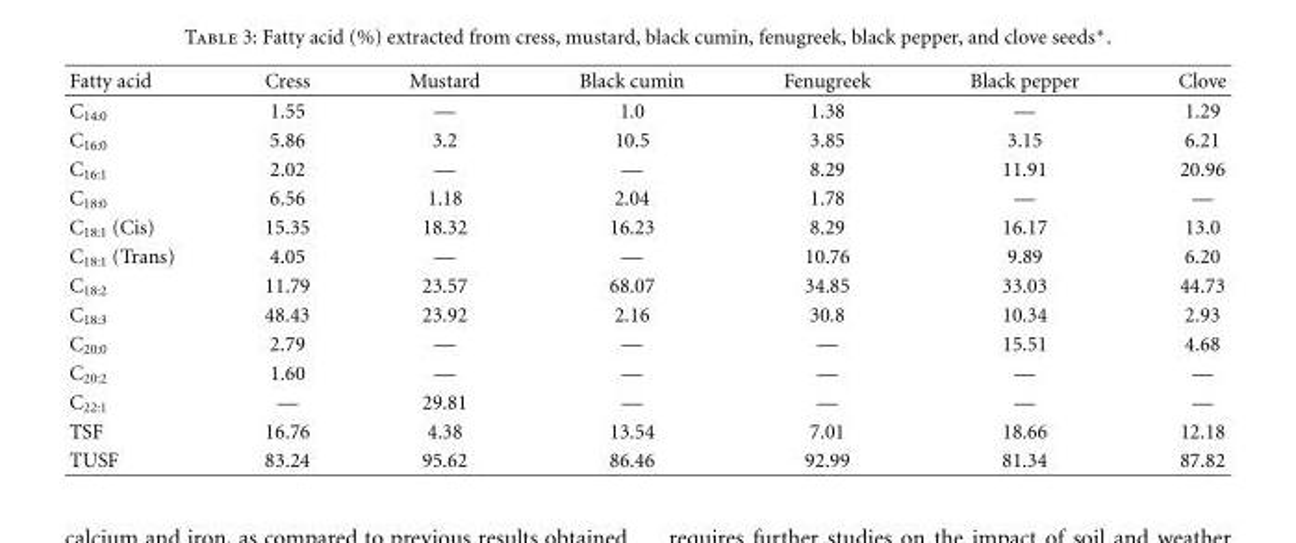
<table><thead><tr><td>Fatty acid</td><td>Cress</td><td>Mustard</td><td>Black cumin</td><td>Fenugreek</td><td>Black pepper</td><td>Clove</td></tr></thead><tbody><tr><td>C<sub>14:0</sub></td><td>1.55</td><td>—</td><td>1.0</td><td>1.38</td><td>—</td><td>1.29</td></tr><tr><td>C<sub>16:0</sub></td><td>5.86</td><td>3.2</td><td>10.5</td><td>3.85</td><td>3.15</td><td>6.21</td></tr><tr><td>C<sub>16:1</sub></td><td>2.02</td><td>—</td><td>—</td><td>8.29</td><td>11.91</td><td>20.96</td></tr><tr><td>C<sub>18:0</sub></td><td>6.56</td><td>1.18</td><td>2.04</td><td>1.78</td><td>—</td><td>—</td></tr><tr><td>C<sub>18:1</sub> (Cis)</td><td>15.35</td><td>18.32</td><td>16.23</td><td>8.29</td><td>16.17</td><td>13.0</td></tr><tr><td>C<sub>18:1</sub> (Trans)</td><td>4.05</td><td>—</td><td>—</td><td>10.76</td><td>9.89</td><td>6.20</td></tr><tr><td>C<sub>18:2</sub></td><td>11.79</td><td>23.57</td><td>68.07</td><td>34.85</td><td>33.03</td><td>44.73</td></tr><tr><td>C<sub>18:3</sub></td><td>48.43</td><td>23.92</td><td>2.16</td><td>30.8</td><td>10.34</td><td>2.93</td></tr><tr><td>C<sub>20:0</sub></td><td>2.79</td><td>—</td><td>—</td><td>—</td><td>15.51</td><td>4.68</td></tr><tr><td>C<sub>20:2</sub></td><td>1.60</td><td>—</td><td>—</td><td>—</td><td>—</td><td>—</td></tr><tr><td>C<sub>22:1</sub></td><td>—</td><td>29.81</td><td>—</td><td>—</td><td>—</td><td>—</td></tr><tr><td>TSF</td><td>16.76</td><td>4.38</td><td>13.54</td><td>7.01</td><td>18.66</td><td>12.18</td></tr><tr><td>TUSF</td><td>83.24</td><td>95.62</td><td>86.46</td><td>92.99</td><td>81.34</td><td>87.82</td></tr></tbody></table>